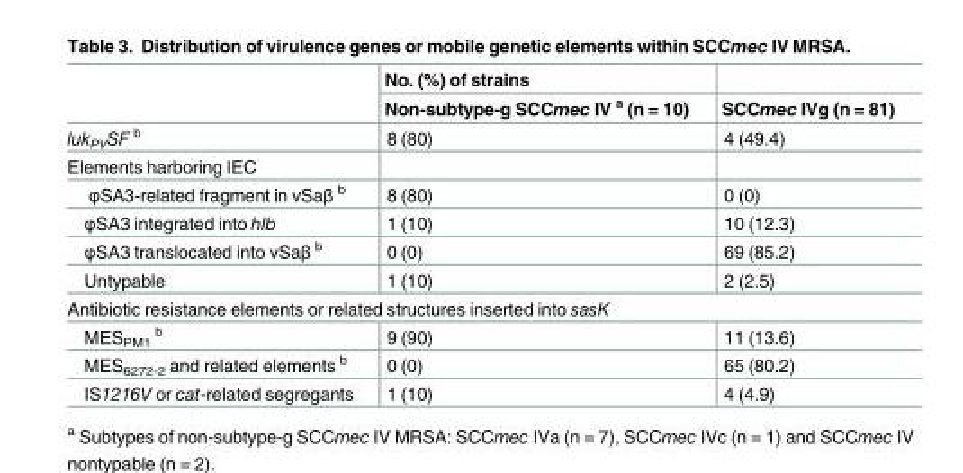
<table><thead><tr><td rowspan="2"></td><td rowspan="2">No. (%) of strains Non-subtype-g SCCmec IV <sup>a</sup> (n = 10)</td><td rowspan="2">SCCmec IVg (n = 81)</td></tr><tr></tr></thead><tbody><tr><td>luk<sub>PV</sub>SF <sup>b</sup></td><td>8 (80)</td><td>4 (49.4)</td></tr><tr><td colspan="3">Elements harboring IEC</td></tr><tr><td>φSA3-related fragment in νSaβ <sup>b</sup></td><td>8 (80)</td><td>0 (0)</td></tr><tr><td>φSA3 integrated into hlb</td><td>1 (10)</td><td>10 (12.3)</td></tr><tr><td>φSA3 translocated into νSaβ <sup>b</sup></td><td>0 (0)</td><td>69 (85.2)</td></tr><tr><td>Untypable</td><td>1 (10)</td><td>2 (2.5)</td></tr><tr><td colspan="3">Antibiotic resistance elements or related structures inserted into sasK</td></tr><tr><td>MES<sub>PM1</sub> <sup>b</sup></td><td>9 (90)</td><td>11 (13.6)</td></tr><tr><td>MES<sub>6272-2</sub> and related elements <sup>b</sup></td><td>0 (0)</td><td>65 (80.2)</td></tr><tr><td>IS1216V or cat-related segregants</td><td>1 (10)</td><td>4 (4.9)</td></tr></tbody></table>